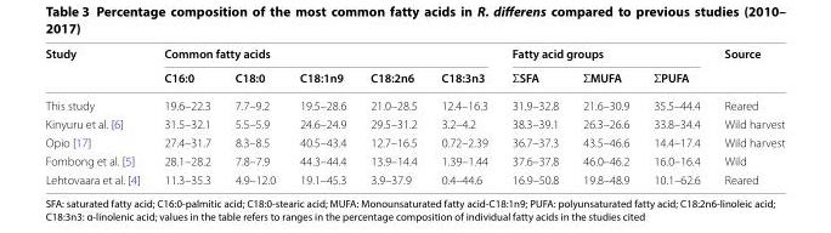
<table><thead><tr><td rowspan="2">Study</td><td colspan="5">Common fatty acids</td><td colspan="3">Fatty acid groups</td><td rowspan="2">Source</td></tr><tr><td>C16:0</td><td>C18:0</td><td>C18:1n9</td><td>C18:2n6</td><td>C18:3n3</td><td>ƩSFA</td><td>ƩMUFA</td><td>ƩPUFA</td></tr></thead><tbody><tr><td>This study</td><td>19.6–22.3</td><td>7.7–9.2</td><td>19.5–28.6</td><td>21.0–28.5</td><td>12.4–16.3</td><td>31.9–32.8</td><td>21.6–30.9</td><td>35.5–44.4</td><td>Reared</td></tr><tr><td>Kinyuru et al. [6]</td><td>31.5–32.1</td><td>5.5–5.9</td><td>24.6–24.9</td><td>29.5–31.2</td><td>3.2–4.2</td><td>38.3–39.1</td><td>26.3–26.6</td><td>33.8–34.4</td><td>Wild harvest</td></tr><tr><td>Opio [17]</td><td>27.4–31.7</td><td>8.3–8.5</td><td>40.5–43.4</td><td>12.7–16.5</td><td>0.72–2.39</td><td>36.7–37.3</td><td>43.5–46.6</td><td>14.4–17.4</td><td>Wild harvest</td></tr><tr><td>Fombong et al. [5]</td><td>28.1–28.2</td><td>7.8–7.9</td><td>44.3–44.4</td><td>13.9–14.4</td><td>1.39–1.44</td><td>37.6–37.8</td><td>46.0–46.2</td><td>16.0–16.4</td><td>Wild</td></tr><tr><td>Lehtovaara et al. [4]</td><td>11.3–35.3</td><td>4.9–12.0</td><td>19.1–45.3</td><td>3.9–37.9</td><td>0.4–44.6</td><td>16.9–50.8</td><td>19.8–48.9</td><td>10.1–62.6</td><td>Reared</td></tr></tbody></table>